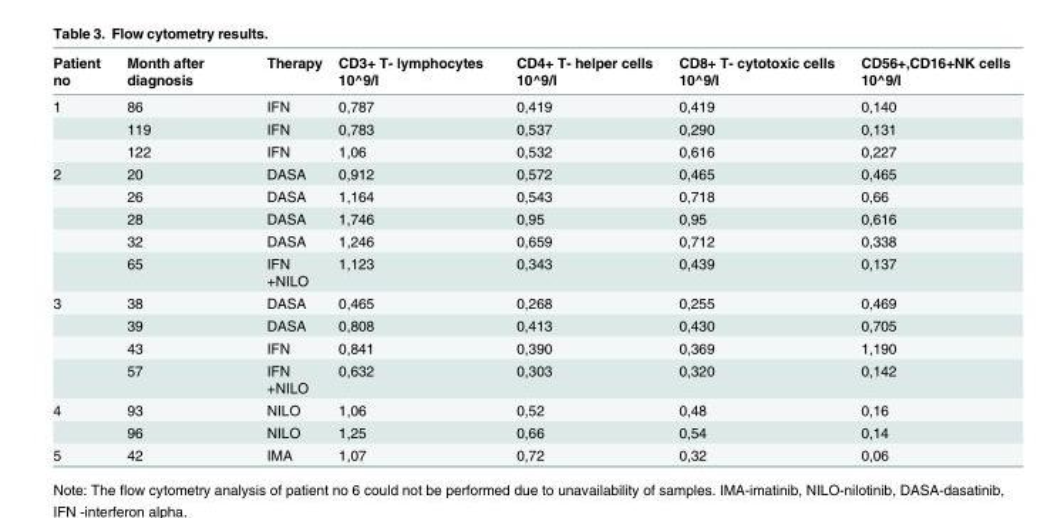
<table><thead><tr><td>Patient no</td><td>Month after diagnosis</td><td>Therapy</td><td>CD3+ T- lymphocytes 10^9/l</td><td>CD4+ T- helper cells 10^9/l</td><td>CD8+ T- cytotoxic cells 10^9/l</td><td>CD56+,CD16+NK cells 10^9/l</td></tr></thead><tbody><tr><td rowspan="3">1</td><td>86</td><td>IFN</td><td>0,787</td><td>0,419</td><td>0,419</td><td>0,140</td></tr><tr><td>119</td><td>IFN</td><td>0,783</td><td>0,537</td><td>0,290</td><td>0,131</td></tr><tr><td>122</td><td>IFN</td><td>1,06</td><td>0,532</td><td>0,616</td><td>0,227</td></tr><tr><td rowspan="5">2</td><td>20</td><td>DASA</td><td>0,912</td><td>0,572</td><td>0,465</td><td>0,465</td></tr><tr><td>26</td><td>DASA</td><td>1,164</td><td>0,543</td><td>0,718</td><td>0,66</td></tr><tr><td>28</td><td>DASA</td><td>1,746</td><td>0,95</td><td>0,95</td><td>0,616</td></tr><tr><td>32</td><td>DASA</td><td>1,246</td><td>0,659</td><td>0,712</td><td>0,338</td></tr><tr><td>65</td><td>IFN +NILO</td><td>1,123</td><td>0,343</td><td>0,439</td><td>0,137</td></tr><tr><td rowspan="4">3</td><td>38</td><td>DASA</td><td>0,465</td><td>0,268</td><td>0,255</td><td>0,469</td></tr><tr><td>39</td><td>DASA</td><td>0,808</td><td>0,413</td><td>0,430</td><td>0,705</td></tr><tr><td>43</td><td>IFN</td><td>0,841</td><td>0,390</td><td>0,369</td><td>1,190</td></tr><tr><td>57</td><td>IFN +NILO</td><td>0,632</td><td>0,303</td><td>0,320</td><td>0,142</td></tr><tr><td rowspan="2">4</td><td>93</td><td>NILO</td><td>1,06</td><td>0,52</td><td>0,48</td><td>0,16</td></tr><tr><td>96</td><td>NILO</td><td>1,25</td><td>0,66</td><td>0,54</td><td>0,14</td></tr><tr><td>5</td><td>42</td><td>IMA</td><td>1,07</td><td>0,72</td><td>0,32</td><td>0,06</td></tr></tbody></table>